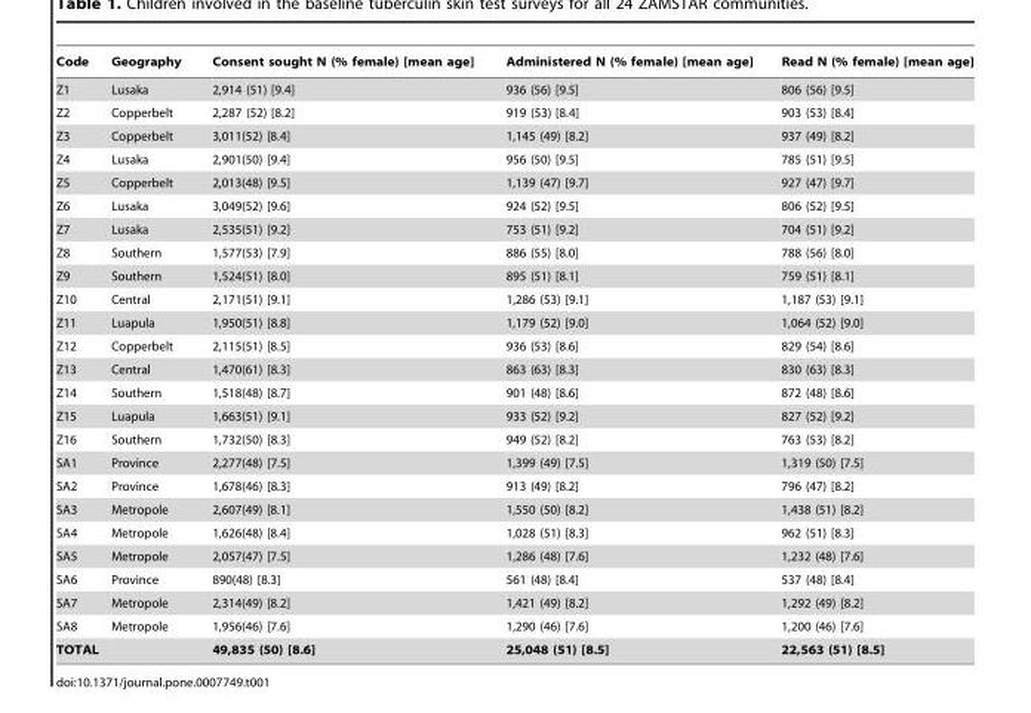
<table><thead><tr><td>Code</td><td>Geography</td><td>Consent sought N (% female) [mean age]</td><td>Administered N (% female) [mean age]</td><td>Read N (% female) [mean age]</td></tr></thead><tbody><tr><td>Z1</td><td>Lusaka</td><td>2,914 (51) [9.4]</td><td>936 (56) [9.5]</td><td>806 (56) [9.5]</td></tr><tr><td>Z2</td><td>Copperbelt</td><td>2,287 (52) [8.2]</td><td>919 (53) [8.4]</td><td>903 (53) [8.4]</td></tr><tr><td>Z3</td><td>Copperbelt</td><td>3,011(52) [8.4]</td><td>1,145 (49) [8.2]</td><td>937 (49) [8.2]</td></tr><tr><td>Z4</td><td>Lusaka</td><td>2,901(50) [9.4]</td><td>956 (50) [9.5]</td><td>785 (51) [9.5]</td></tr><tr><td>Z5</td><td>Copperbelt</td><td>2,013(48) [9.5]</td><td>1,139 (47) [9.7]</td><td>927 (47) [9.7]</td></tr><tr><td>Z6</td><td>Lusaka</td><td>3,049(52) [9.6]</td><td>924 (52) [9.5]</td><td>806 (52) [9.5]</td></tr><tr><td>Z7</td><td>Lusaka</td><td>2,535(51) [9.2]</td><td>753 (51) [9.2]</td><td>704 (51) [9.2]</td></tr><tr><td>Z8</td><td>Southern</td><td>1,577(53) [7.9]</td><td>886 (55) [8.0]</td><td>788 (56) [8.0]</td></tr><tr><td>Z9</td><td>Southern</td><td>1,524(51) [8.0]</td><td>895 (51) [8.1]</td><td>759 (51) [8.1]</td></tr><tr><td>Z10</td><td>Central</td><td>2,171(51) [9.1]</td><td>1,286 (53) [9.1]</td><td>1,187 (53) [9.1]</td></tr><tr><td>Z11</td><td>Luapula</td><td>1,950(51) [8.8]</td><td>1,179 (52) [9.0]</td><td>1,064 (52) [9.0]</td></tr><tr><td>Z12</td><td>Copperbelt</td><td>2,115(51) [8.5]</td><td>936 (53) [8.6]</td><td>829 (54) [8.6]</td></tr><tr><td>Z13</td><td>Central</td><td>1,470(61) [8.3]</td><td>863 (63) [8.3]</td><td>830 (63) [8.3]</td></tr><tr><td>Z14</td><td>Southern</td><td>1,518(48) [8.7]</td><td>901 (48) [8.6]</td><td>872 (48) [8.6]</td></tr><tr><td>Z15</td><td>Luapula</td><td>1,663(51) [9.1]</td><td>933 (52) [9.2]</td><td>827 (52) [9.2]</td></tr><tr><td>Z16</td><td>Southern</td><td>1,732(50) [8.3]</td><td>949 (52) [8.2]</td><td>763 (53) [8.2]</td></tr><tr><td>SA1</td><td>Province</td><td>2,277(48) [7.5]</td><td>1,399 (49) [7.5]</td><td>1,319 (50) [7.5]</td></tr><tr><td>SA2</td><td>Province</td><td>1,678(46) [8.3]</td><td>913 (49) [8.2]</td><td>796 (47) [8.2]</td></tr><tr><td>SA3</td><td>Metropole</td><td>2,607(49) [8.1]</td><td>1,550 (50) [8.2]</td><td>1,438 (51) [8.2]</td></tr><tr><td>SA4</td><td>Metropole</td><td>1,626(48) [8.4]</td><td>1,028 (51) [8.3]</td><td>962 (51) [8.3]</td></tr><tr><td>SA5</td><td>Metropole</td><td>2,057(47) [7.5]</td><td>1,286 (48) [7.6]</td><td>1,232 (48) [7.6]</td></tr><tr><td>SA6</td><td>Province</td><td>890(48) [8.3]</td><td>561 (48) [8.4]</td><td>537 (48) [8.4]</td></tr><tr><td>SA7</td><td>Metropole</td><td>2,314(49) [8.2]</td><td>1,421 (49) [8.2]</td><td>1,292 (49) [8.2]</td></tr><tr><td>SA8</td><td>Metropole</td><td>1,956(46) [7.6]</td><td>1,290 (46) [7.6]</td><td>1,200 (46) [7.6]</td></tr><tr><td>TOTAL</td><td></td><td>49,835 (50) [8.6]</td><td>25,048 (51) [8.5]</td><td>22,563 (51) [8.5]</td></tr></tbody></table>